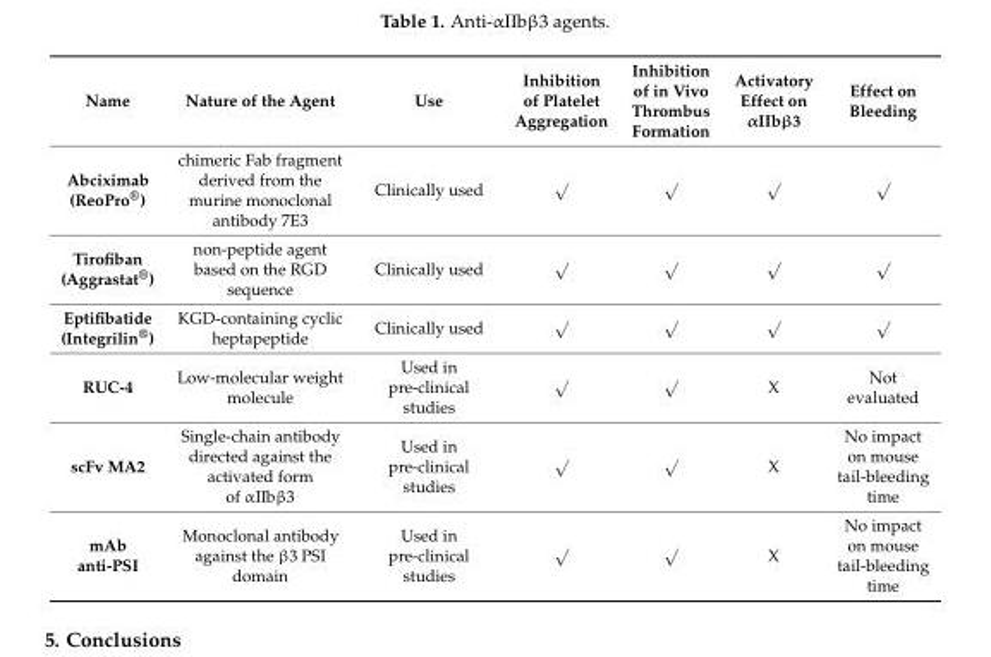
<table><thead><tr><td>Name</td><td>Nature of the Agent</td><td>Use</td><td>Inhibition of Platelet Aggregation</td><td>Inhibition of in Vivo Thrombus Formation</td><td>Activatory Effect on αIIbβ3</td><td>Effect on Bleeding</td></tr></thead><tbody><tr><td>Abciximab (ReoPro<sup>®</sup>)</td><td>chimeric Fab fragment derived from the murine monoclonal antibody 7E3</td><td>Clinically used</td><td>√</td><td>√</td><td>√</td><td>√</td></tr><tr><td>Tirofiban (Aggrastat<sup>®</sup>)</td><td>non-peptide agent based on the RGD sequence</td><td>Clinically used</td><td>√</td><td>√</td><td>√</td><td>√</td></tr><tr><td>Eptifibatide (Integrilin<sup>®</sup>)</td><td>KGD-containing cyclic heptapeptide</td><td>Clinically used</td><td>√</td><td>√</td><td>√</td><td>√</td></tr><tr><td>RUC-4</td><td>Low-molecular weight molecule</td><td>Used in pre-clinical studies</td><td>√</td><td>√</td><td>X</td><td>Not evaluated</td></tr><tr><td>scFv MA2</td><td>Single-chain antibody directed against the activated form of αIIbβ3</td><td>Used in pre-clinical studies</td><td>√</td><td>√</td><td>X</td><td>No impact on mouse tail-bleeding time</td></tr><tr><td>mAb anti-PSI</td><td>Monoclonal antibody against the β3 PSI domain</td><td>Used in pre-clinical studies</td><td>√</td><td>√</td><td>X</td><td>No impact on mouse tail-bleeding time</td></tr></tbody></table>